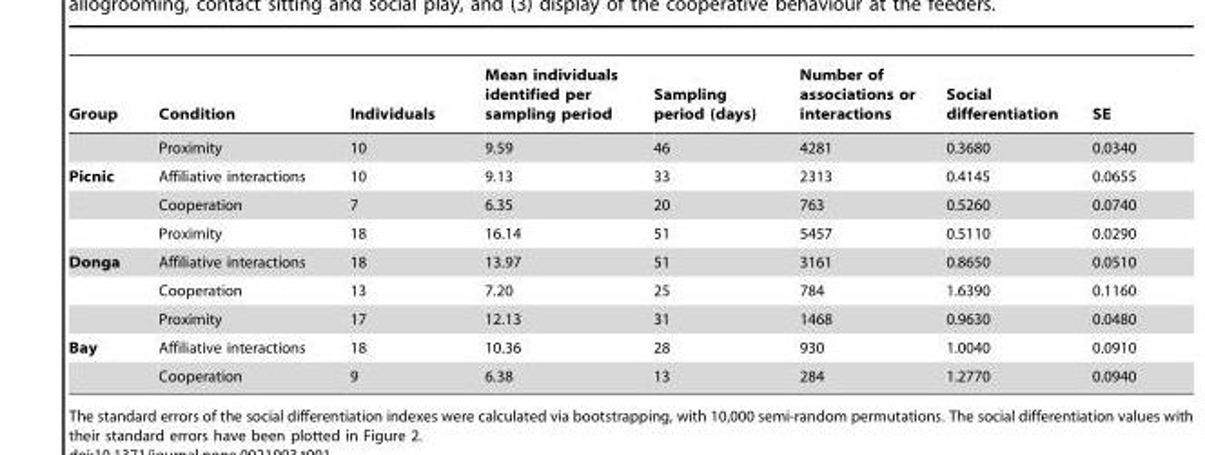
<table><thead><tr><td>Group</td><td>Condition</td><td>Individuals</td><td>Mean individuals identified per sampling period</td><td>Sampling period (days)</td><td>Number of associations or interactions</td><td>Social differentiation</td><td>SE</td></tr></thead><tbody><tr><td></td><td>Proximity</td><td>10</td><td>9.59</td><td>46</td><td>4281</td><td>0.3680</td><td>0.0340</td></tr><tr><td rowspan="3">Picnic</td><td>Affiliative interactions</td><td>10</td><td>9.13</td><td>33</td><td>2313</td><td>0.4145</td><td>0.0655</td></tr><tr><td>Cooperation</td><td>7</td><td>6.35</td><td>20</td><td>763</td><td>0.5260</td><td>0.0740</td></tr><tr><td>Proximity</td><td>18</td><td>16.14</td><td>51</td><td>5457</td><td>0.5110</td><td>0.0290</td></tr><tr><td rowspan="3">Donga</td><td>Affiliative interactions</td><td>18</td><td>13.97</td><td>51</td><td>3161</td><td>0.8650</td><td>0.0510</td></tr><tr><td>Cooperation</td><td>13</td><td>7.20</td><td>25</td><td>784</td><td>1.6390</td><td>0.1160</td></tr><tr><td>Proximity</td><td>17</td><td>12.13</td><td>31</td><td>1468</td><td>0.9630</td><td>0.0480</td></tr><tr><td rowspan="2">Bay</td><td>Affiliative interactions</td><td>18</td><td>10.36</td><td>28</td><td>930</td><td>1.0040</td><td>0.0910</td></tr><tr><td>Cooperation</td><td>9</td><td>6.38</td><td>13</td><td>284</td><td>1.2770</td><td>0.0940</td></tr></tbody></table>